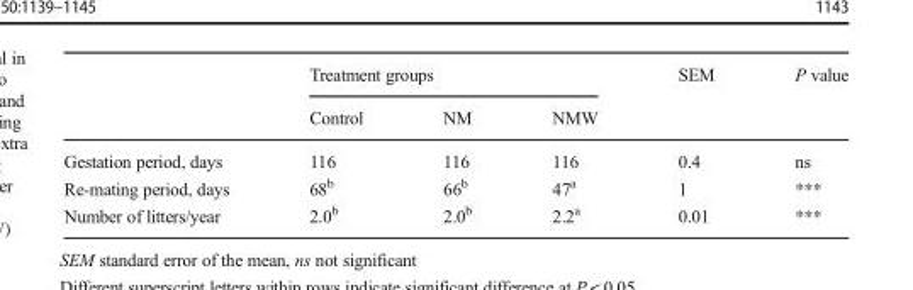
<table><thead><tr><td rowspan="2"></td><td colspan="3">Treatment groups</td><td rowspan="2">SEM</td><td rowspan="2">P value</td></tr><tr><td>Control</td><td>NM</td><td>NMW</td></tr></thead><tbody><tr><td>Gestation period, days</td><td>116</td><td>116</td><td>116</td><td>0.4</td><td>ns</td></tr><tr><td>Re-mating period, days</td><td>68<sup>b</sup></td><td>66<sup>b</sup></td><td>47<sup>a</sup></td><td>1</td><td>***</td></tr><tr><td>Number of litters/year</td><td>2.0<sup>b</sup></td><td>2.0<sup>b</sup></td><td>2.2<sup>a</sup></td><td>0.01</td><td>***</td></tr></tbody></table>